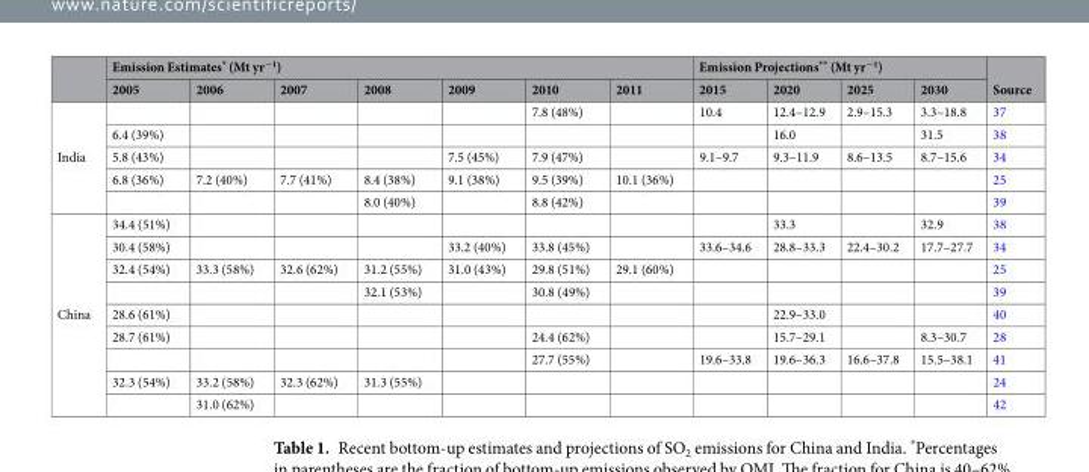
<table><thead><tr><td rowspan="2"></td><td colspan="7">Emission Estimates* (Mt yr<sup>−1</sup>)</td><td colspan="4">Emission Projections** (Mt yr<sup>−1</sup>)</td><td rowspan="2">Source</td></tr><tr><td>2005</td><td>2006</td><td>2007</td><td>2008</td><td>2009</td><td>2010</td><td>2011</td><td>2015</td><td>2020</td><td>2025</td><td>2030</td></tr></thead><tbody><tr><td rowspan="5">India</td><td></td><td></td><td></td><td></td><td></td><td>7.8 (48%)</td><td></td><td>10.4</td><td>12.4–12.9</td><td>2.9–15.3</td><td>3.3–18.8</td><td><sup>37</sup></td></tr><tr><td>6.4 (39%)</td><td></td><td></td><td></td><td></td><td></td><td></td><td></td><td>16.0</td><td></td><td>31.5</td><td><sup>38</sup></td></tr><tr><td>5.8 (43%)</td><td></td><td></td><td></td><td>7.5 (45%)</td><td>7.9 (47%)</td><td></td><td>9.1–9.7</td><td>9.3–11.9</td><td>8.6–13.5</td><td>8.7–15.6</td><td><sup>34</sup></td></tr><tr><td>6.8 (36%)</td><td>7.2 (40%)</td><td>7.7 (41%)</td><td>8.4 (38%)</td><td>9.1 (38%)</td><td>9.5 (39%)</td><td>10.1 (36%)</td><td></td><td></td><td></td><td></td><td><sup>25</sup></td></tr><tr><td></td><td></td><td></td><td>8.0 (40%)</td><td></td><td>8.8 (42%)</td><td></td><td></td><td></td><td></td><td></td><td><sup>39</sup></td></tr><tr><td rowspan="9">China</td><td>34.4 (51%)</td><td></td><td></td><td></td><td></td><td></td><td></td><td></td><td>33.3</td><td></td><td>32.9</td><td><sup>38</sup></td></tr><tr><td>30.4 (58%)</td><td></td><td></td><td></td><td>33.2 (40%)</td><td>33.8 (45%)</td><td></td><td>33.6–34.6</td><td>28.8–33.3</td><td>22.4–30.2</td><td>17.7–27.7</td><td><sup>34</sup></td></tr><tr><td>32.4 (54%)</td><td>33.3 (58%)</td><td>32.6 (62%)</td><td>31.2 (55%)</td><td>31.0 (43%)</td><td>29.8 (51%)</td><td>29.1 (60%)</td><td></td><td></td><td></td><td></td><td><sup>25</sup></td></tr><tr><td></td><td></td><td></td><td>32.1 (53%)</td><td></td><td>30.8 (49%)</td><td></td><td></td><td></td><td></td><td></td><td><sup>39</sup></td></tr><tr><td>28.6 (61%)</td><td></td><td></td><td></td><td></td><td></td><td></td><td></td><td>22.9–33.0</td><td></td><td></td><td><sup>40</sup></td></tr><tr><td>28.7 (61%)</td><td></td><td></td><td></td><td></td><td>24.4 (62%)</td><td></td><td></td><td>15.7–29.1</td><td></td><td>8.3–30.7</td><td><sup>28</sup></td></tr><tr><td></td><td></td><td></td><td></td><td></td><td>27.7 (55%)</td><td></td><td>19.6–33.8</td><td>19.6–36.3</td><td>16.6–37.8</td><td>15.5–38.1</td><td><sup>41</sup></td></tr><tr><td>32.3 (54%)</td><td>33.2 (58%)</td><td>32.3 (62%)</td><td>31.3 (55%)</td><td></td><td></td><td></td><td></td><td></td><td></td><td></td><td><sup>24</sup></td></tr><tr><td></td><td>31.0 (62%)</td><td></td><td></td><td></td><td></td><td></td><td></td><td></td><td></td><td></td><td><sup>42</sup></td></tr></tbody></table>